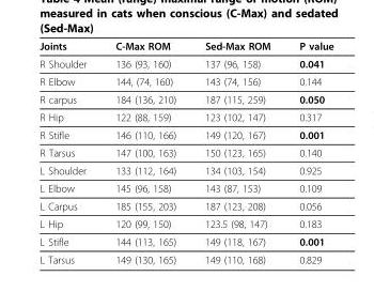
<table><thead><tr><td>Joints</td><td>C-Max ROM</td><td>Sed-Max ROM</td><td>P value</td></tr></thead><tbody><tr><td>R Shoulder</td><td>136 (93, 160)</td><td>137 (96, 158)</td><td>0.041</td></tr><tr><td>R Elbow</td><td>144, (74, 160)</td><td>143 (74, 156)</td><td>0.144</td></tr><tr><td>R carpus</td><td>184 (136, 210)</td><td>187 (115, 259)</td><td>0.050</td></tr><tr><td>R Hip</td><td>122 (88, 159)</td><td>123 (102, 147)</td><td>0.317</td></tr><tr><td>R Stifle</td><td>146 (110, 166)</td><td>149 (120, 167)</td><td>0.001</td></tr><tr><td>R Tarsus</td><td>147 (100, 163)</td><td>150 (123, 165)</td><td>0.140</td></tr><tr><td>L Shoulder</td><td>133 (112, 164)</td><td>134 (103, 154)</td><td>0.925</td></tr><tr><td>L Elbow</td><td>145 (96, 158)</td><td>143 (87, 153)</td><td>0.109</td></tr><tr><td>L Carpus</td><td>185 (155, 203)</td><td>187 (123, 208)</td><td>0.056</td></tr><tr><td>L Hip</td><td>120 (99, 150)</td><td>123.5 (98, 147)</td><td>0.183</td></tr><tr><td>L Stifle</td><td>144 (113, 165)</td><td>149 (118, 167)</td><td>0.001</td></tr><tr><td>L Tarsus</td><td>149 (130, 165)</td><td>149 (110, 168)</td><td>0.829</td></tr></tbody></table>